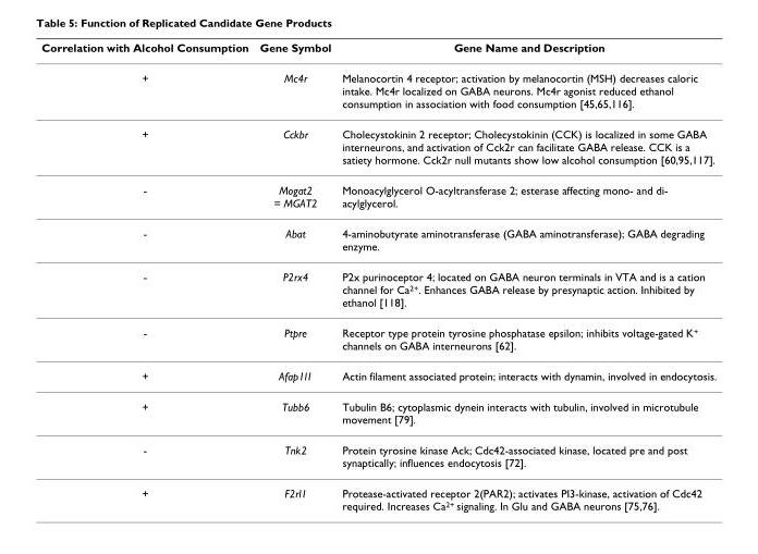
<table><thead><tr><td>Correlation with Alcohol Consumption</td><td>Gene Symbol</td><td>Gene Name and Description</td></tr></thead><tbody><tr><td>+</td><td>Mc4r</td><td>Melanocortin 4 receptor; activation by melanocortin (MSH) decreases caloric intake. Mc4r localized on GABA neurons. Mc4r agonist reduced ethanol consumption in association with food consumption [45,65,116].</td></tr><tr><td>+</td><td>Cckbr</td><td>Cholecystokinin 2 receptor; Cholecystokinin (CCK) is localized in some GABA interneurons, and activation of Cck2r can facilitate GABA release. CCK is a satiety hormone. Cck2r null mutants show low alcohol consumption [60,95,117].</td></tr><tr><td>-</td><td>Mogat2 = MGAT2</td><td>Monoacylglycerol O-acyltransferase 2; esterase affecting mono- and di- acylglycerol.</td></tr><tr><td>-</td><td>Abat</td><td>4-aminobutyrate aminotransferase (GABA aminotransferase); GABA degrading enzyme.</td></tr><tr><td>-</td><td>P2rx4</td><td>P2x purinoceptor 4; located on GABA neuron terminals in VTA and is a cation channel for Ca<sup>2+</sup>. Enhances GABA release by presynaptic action. Inhibited by ethanol [118].</td></tr><tr><td>-</td><td>Ptpre</td><td>Receptor type protein tyrosine phosphatase epsilon; inhibits voltage-gated K<sup>+</sup> channels on GABA interneurons [62].</td></tr><tr><td>+</td><td>Afap1l1</td><td>Actin filament associated protein; interacts with dynamin, involved in endocytosis.</td></tr><tr><td>+</td><td>Tubb6</td><td>Tubulin B6; cytoplasmic dynein interacts with tubulin, involved in microtubule movement [79].</td></tr><tr><td>-</td><td>Tnk2</td><td>Protein tyrosine kinase Ack; Cdc42-associated kinase, located pre and post synaptically; influences endocytosis [72].</td></tr><tr><td>+</td><td>F2rl1</td><td>Protease-activated receptor 2(PAR2); activates PI3-kinase, activation of Cdc42 required. Increases Ca<sup>2+</sup> signaling. In Glu and GABA neurons [75,76].</td></tr></tbody></table>